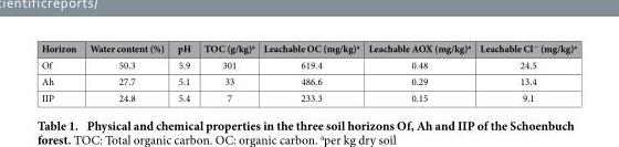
<table><thead><tr><td>Horizon</td><td>Water content (%)</td><td>pH</td><td>TOC (g/kg)<sup>a</sup></td><td>Leachable OC (mg/kg)<sup>a</sup></td><td>Leachable AOX (mg/kg)<sup>a</sup></td><td>Leachable Cl<sup>−</sup> (mg/kg)<sup>a</sup></td></tr></thead><tbody><tr><td>Of</td><td>50.3</td><td>5.9</td><td>301</td><td>619.4</td><td>0.48</td><td>24.5</td></tr><tr><td>Ah</td><td>27.7</td><td>5.1</td><td>33</td><td>486.6</td><td>0.29</td><td>13.4</td></tr><tr><td>IIP</td><td>24.8</td><td>5.4</td><td>7</td><td>233.3</td><td>0.15</td><td>9.1</td></tr></tbody></table>